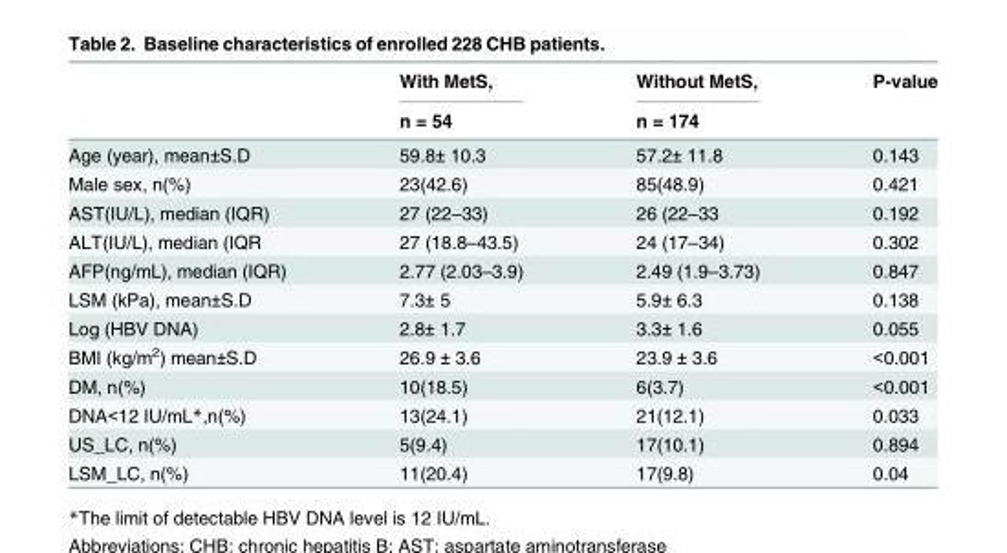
<table><thead><tr><td rowspan="2"></td><td rowspan="2">With MetS, n = 54</td><td rowspan="2">Without MetS, n = 174</td><td rowspan="2">P-value</td></tr><tr></tr></thead><tbody><tr><td>Age (year), mean±S.D</td><td>59.8± 10.3</td><td>57.2± 11.8</td><td>0.143</td></tr><tr><td>Male sex, n(%)</td><td>23(42.6)</td><td>85(48.9)</td><td>0.421</td></tr><tr><td>AST(IU/L), median (IQR)</td><td>27 (22–33)</td><td>26 (22–33</td><td>0.192</td></tr><tr><td>ALT(IU/L), median (IQR</td><td>27 (18.8–43.5)</td><td>24 (17–34)</td><td>0.302</td></tr><tr><td>AFP(ng/mL), median (IQR)</td><td>2.77 (2.03–3.9)</td><td>2.49 (1.9–3.73)</td><td>0.847</td></tr><tr><td>LSM (kPa), mean±S.D</td><td>7.3± 5</td><td>5.9± 6.3</td><td>0.138</td></tr><tr><td>Log (HBV DNA)</td><td>2.8± 1.7</td><td>3.3± 1.6</td><td>0.055</td></tr><tr><td>BMI (kg/m<sup>2</sup>) mean±S.D</td><td>26.9 ± 3.6</td><td>23.9 ± 3.6</td><td>&lt;0.001</td></tr><tr><td>DM, n(%)</td><td>10(18.5)</td><td>6(3.7)</td><td>&lt;0.001</td></tr><tr><td>DNA&lt;12 IU/mL*,n(%)</td><td>13(24.1)</td><td>21(12.1)</td><td>0.033</td></tr><tr><td>US_LC, n(%)</td><td>5(9.4)</td><td>17(10.1)</td><td>0.894</td></tr><tr><td>LSM_LC, n(%)</td><td>11(20.4)</td><td>17(9.8)</td><td>0.04</td></tr></tbody></table>